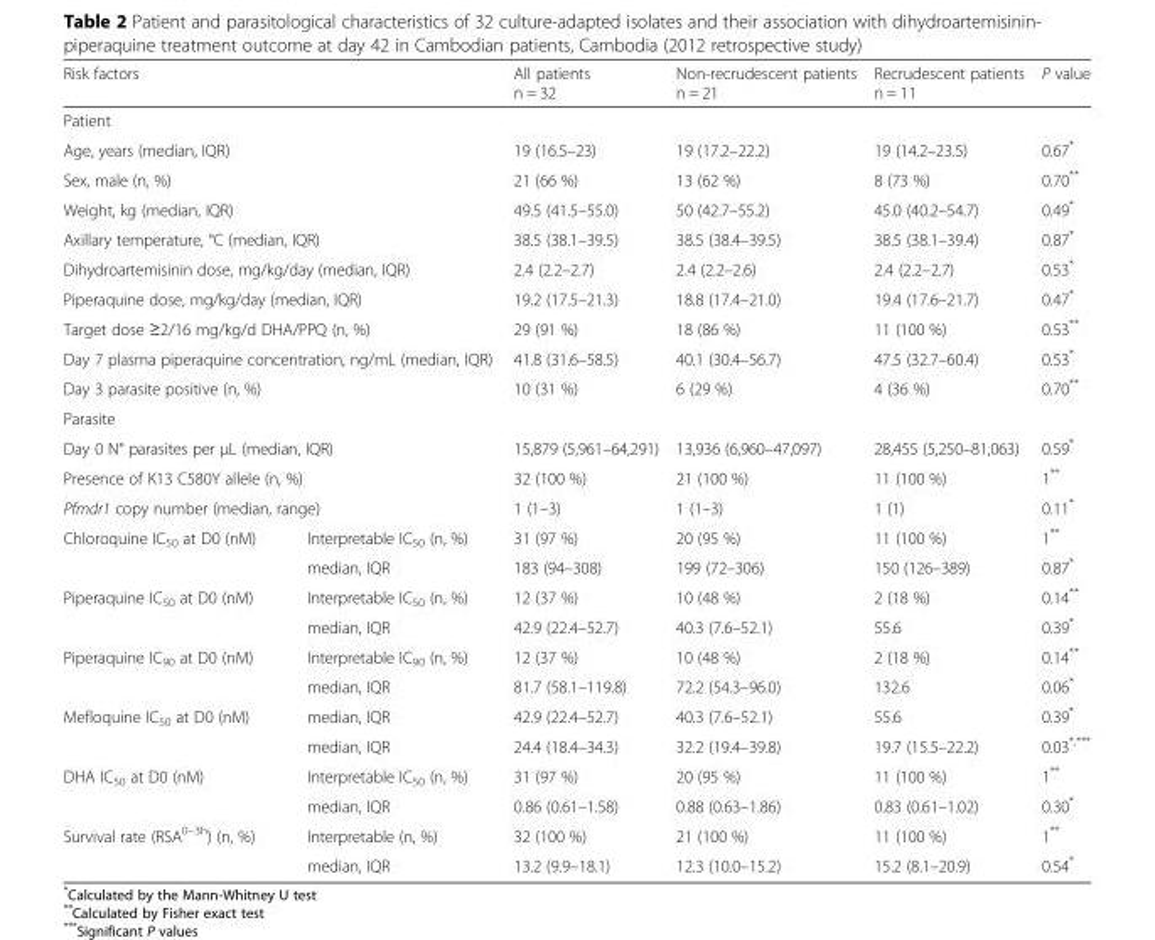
<table><thead><tr><td>Risk factors</td><td></td><td>All patients n = 32</td><td>Non-recrudescent patients n = 21</td><td>Recrudescent patients n = 11</td><td>P value</td></tr></thead><tbody><tr><td colspan="6">Patient</td></tr><tr><td>Age, years (median, IQR)</td><td></td><td>19 (16.5–23)</td><td>19 (17.2–22.2)</td><td>19 (14.2–23.5)</td><td>0.67*</td></tr><tr><td>Sex, male (n, %)</td><td></td><td>21 (66 %)</td><td>13 (62 %)</td><td>8 (73 %)</td><td>0.70**</td></tr><tr><td>Weight, kg (median, IQR)</td><td></td><td>49.5 (41.5–55.0)</td><td>50 (42.7–55.2)</td><td>45.0 (40.2–54.7)</td><td>0.49*</td></tr><tr><td colspan="2">Axillary temperature, °C (median, IQR)</td><td>38.5 (38.1–39.5)</td><td>38.5 (38.4–39.5)</td><td>38.5 (38.1–39.4)</td><td>0.87*</td></tr><tr><td colspan="2">Dihydroartemisinin dose, mg/kg/day (median, IQR)</td><td>2.4 (2.2–2.7)</td><td>2.4 (2.2–2.6)</td><td>2.4 (2.2–2.7)</td><td>0.53*</td></tr><tr><td colspan="2">Piperaquine dose, mg/kg/day (median, IQR)</td><td>19.2 (17.5–21.3)</td><td>18.8 (17.4–21.0)</td><td>19.4 (17.6–21.7)</td><td>0.47*</td></tr><tr><td colspan="2">Target dose ≥2/16 mg/kg/d DHA/PPQ (n, %)</td><td>29 (91 %)</td><td>18 (86 %)</td><td>11 (100 %)</td><td>0.53**</td></tr><tr><td colspan="2">Day 7 plasma piperaquine concentration, ng/mL (median, IQR)</td><td>41.8 (31.6–58.5)</td><td>40.1 (30.4–56.7)</td><td>47.5 (32.7–60.4)</td><td>0.53*</td></tr><tr><td>Day 3 parasite positive (n, %)</td><td></td><td>10 (31 %)</td><td>6 (29 %)</td><td>4 (36 %)</td><td>0.70**</td></tr><tr><td colspan="6">Parasite</td></tr><tr><td colspan="2">Day 0 N° parasites per μL (median, IQR)</td><td>15,879 (5,961–64,291)</td><td>13,936 (6,960–47,097)</td><td>28,455 (5,250–81,063)</td><td>0.59*</td></tr><tr><td colspan="2">Presence of K13 C580Y allele (n, %)</td><td>32 (100 %)</td><td>21 (100 %)</td><td>11 (100 %)</td><td>1**</td></tr><tr><td colspan="2">Pfmdr1 copy number (median, range)</td><td>1 (1–3)</td><td>1 (1–3)</td><td>1 (1)</td><td>0.11*</td></tr><tr><td rowspan="2">Chloroquine IC<sub>50</sub> at D0 (nM)</td><td>Interpretable IC<sub>50</sub> (n, %)</td><td>31 (97 %)</td><td>20 (95 %)</td><td>11 (100 %)</td><td>1**</td></tr><tr><td>median, IQR</td><td>183 (94–308)</td><td>199 (72–306)</td><td>150 (126–389)</td><td>0.87*</td></tr><tr><td rowspan="2">Piperaquine IC<sub>50</sub> at D0 (nM)</td><td>Interpretable IC<sub>50</sub> (n, %)</td><td>12 (37 %)</td><td>10 (48 %)</td><td>2 (18 %)</td><td>0.14**</td></tr><tr><td>median, IQR</td><td>42.9 (22.4–52.7)</td><td>40.3 (7.6–52.1)</td><td>55.6</td><td>0.39*</td></tr><tr><td rowspan="2">Piperaquine IC<sub>90</sub> at D0 (nM)</td><td>Interpretable IC<sub>90</sub> (n, %)</td><td>12 (37 %)</td><td>10 (48 %)</td><td>2 (18 %)</td><td>0.14**</td></tr><tr><td>median, IQR</td><td>81.7 (58.1–119.8)</td><td>72.2 (54.3–96.0)</td><td>132.6</td><td>0.06*</td></tr><tr><td rowspan="2">Mefloquine IC<sub>50</sub> at D0 (nM)</td><td>median, IQR</td><td>42.9 (22.4–52.7)</td><td>40.3 (7.6–52.1)</td><td>55.6</td><td>0.39*</td></tr><tr><td>median, IQR</td><td>24.4 (18.4–34.3)</td><td>32.2 (19.4–39.8)</td><td>19.7 (15.5–22.2)</td><td>0.03<sup>*,***</sup></td></tr><tr><td rowspan="2">DHA IC<sub>50</sub> at D0 (nM)</td><td>Interpretable IC<sub>50</sub> (n, %)</td><td>31 (97 %)</td><td>20 (95 %)</td><td>11 (100 %)</td><td>1**</td></tr><tr><td>median, IQR</td><td>0.86 (0.61–1.58)</td><td>0.88 (0.63–1.86)</td><td>0.83 (0.61–1.02)</td><td>0.30*</td></tr><tr><td rowspan="2">Survival rate (RSA<sup>0–3h</sup>) (n, %)</td><td>Interpretable (n, %)</td><td>32 (100 %)</td><td>21 (100 %)</td><td>11 (100 %)</td><td>1**</td></tr><tr><td>median, IQR</td><td>13.2 (9.9–18.1)</td><td>12.3 (10.0–15.2)</td><td>15.2 (8.1–20.9)</td><td>0.54*</td></tr></tbody></table>